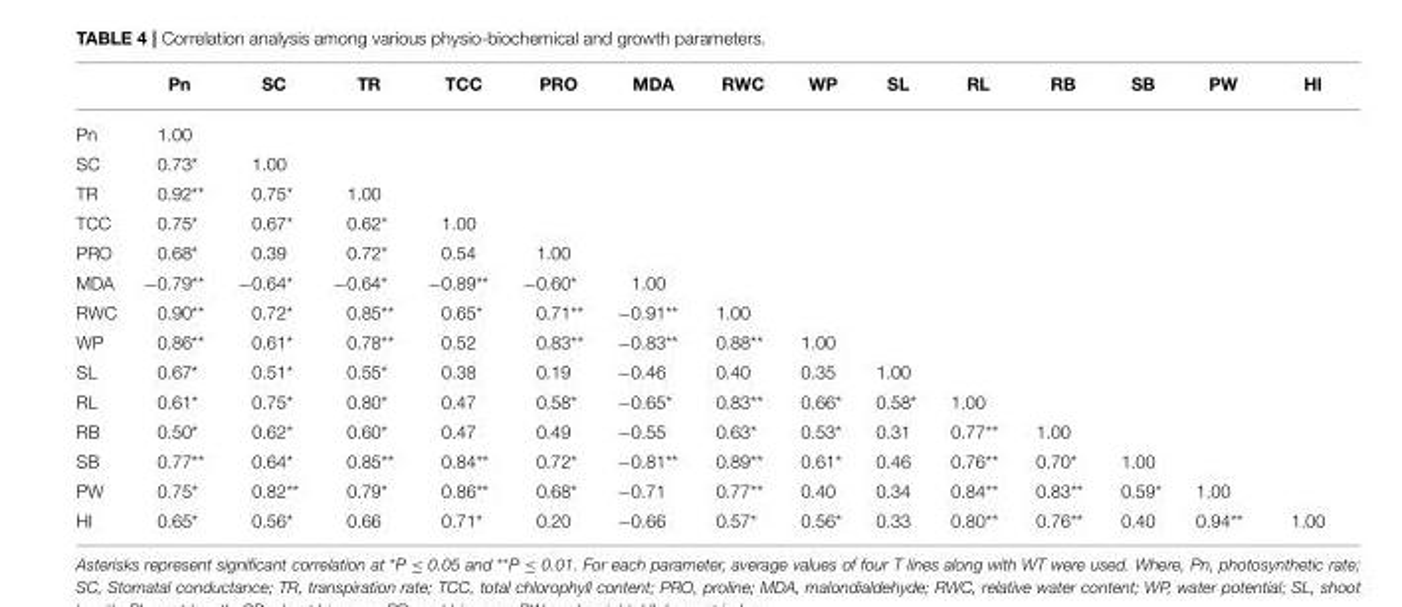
<table><thead><tr><td></td><td>Pn</td><td>SC</td><td>TR</td><td>TCC</td><td>PRO</td><td>MDA</td><td>RWC</td><td>WP</td><td>SL</td><td>RL</td><td>RB</td><td>SB</td><td>PW</td><td>HI</td></tr></thead><tbody><tr><td>Pn</td><td>1.00</td><td></td><td></td><td></td><td></td><td></td><td></td><td></td><td></td><td></td><td></td><td></td><td></td><td></td></tr><tr><td>SC</td><td>0.73*</td><td>1.00</td><td></td><td></td><td></td><td></td><td></td><td></td><td></td><td></td><td></td><td></td><td></td><td></td></tr><tr><td>TR</td><td>0.92**</td><td>0.75*</td><td>1.00</td><td></td><td></td><td></td><td></td><td></td><td></td><td></td><td></td><td></td><td></td><td></td></tr><tr><td>TCC</td><td>0.75*</td><td>0.67*</td><td>0.62*</td><td>1.00</td><td></td><td></td><td></td><td></td><td></td><td></td><td></td><td></td><td></td><td></td></tr><tr><td>PRO</td><td>0.68*</td><td>0.39</td><td>0.72*</td><td>0.54</td><td>1.00</td><td></td><td></td><td></td><td></td><td></td><td></td><td></td><td></td><td></td></tr><tr><td>MDA</td><td>−0.79**</td><td>−0.64*</td><td>−0.64*</td><td>−0.89**</td><td>−0.60*</td><td>1.00</td><td></td><td></td><td></td><td></td><td></td><td></td><td></td><td></td></tr><tr><td>RWC</td><td>0.90**</td><td>0.72*</td><td>0.85**</td><td>0.65*</td><td>0.71**</td><td>−0.91**</td><td>1.00</td><td></td><td></td><td></td><td></td><td></td><td></td><td></td></tr><tr><td>WP</td><td>0.86**</td><td>0.61*</td><td>0.78**</td><td>0.52</td><td>0.83**</td><td>−0.83**</td><td>0.88**</td><td>1.00</td><td></td><td></td><td></td><td></td><td></td><td></td></tr><tr><td>SL</td><td>0.67*</td><td>0.51*</td><td>0.55*</td><td>0.38</td><td>0.19</td><td>−0.46</td><td>0.40</td><td>0.35</td><td>1.00</td><td></td><td></td><td></td><td></td><td></td></tr><tr><td>RL</td><td>0.61*</td><td>0.75*</td><td>0.80*</td><td>0.47</td><td>0.58*</td><td>−0.65*</td><td>0.83**</td><td>0.66*</td><td>0.58*</td><td>1.00</td><td></td><td></td><td></td><td></td></tr><tr><td>RB</td><td>0.50*</td><td>0.62*</td><td>0.60*</td><td>0.47</td><td>0.49</td><td>−0.55</td><td>0.63*</td><td>0.53*</td><td>0.31</td><td>0.77**</td><td>1.00</td><td></td><td></td><td></td></tr><tr><td>SB</td><td>0.77**</td><td>0.64*</td><td>0.85**</td><td>0.84**</td><td>0.72*</td><td>−0.81**</td><td>0.89**</td><td>0.61*</td><td>0.46</td><td>0.76**</td><td>0.70*</td><td>1.00</td><td></td><td></td></tr><tr><td>PW</td><td>0.75*</td><td>0.82**</td><td>0.79*</td><td>0.86**</td><td>0.68*</td><td>−0.71</td><td>0.77**</td><td>0.40</td><td>0.34</td><td>0.84**</td><td>0.83**</td><td>0.59*</td><td>1.00</td><td></td></tr><tr><td>HI</td><td>0.65*</td><td>0.56*</td><td>0.66</td><td>0.71*</td><td>0.20</td><td>−0.66</td><td>0.57*</td><td>0.56*</td><td>0.33</td><td>0.80**</td><td>0.76**</td><td>0.40</td><td>0.94**</td><td>1.00</td></tr></tbody></table>